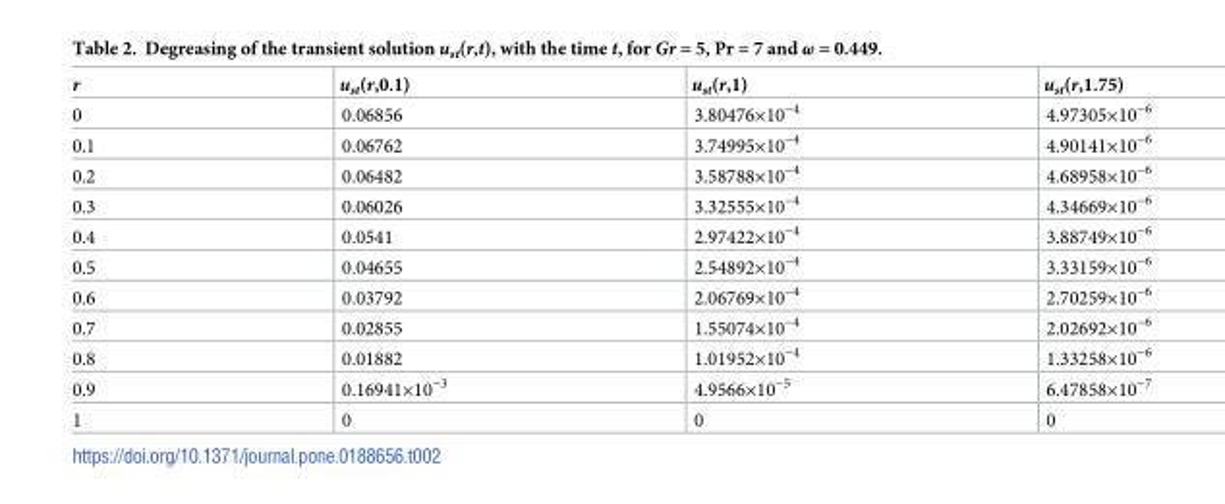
<table><thead><tr><td>r</td><td>u<sub>st</sub>(r,0.1)</td><td>u<sub>st</sub>(r,1)</td><td>u<sub>st</sub>(r,1.75)</td></tr></thead><tbody><tr><td>0</td><td>0.06856</td><td>3.80476×10<sup>−4</sup></td><td>4.97305×10<sup>−6</sup></td></tr><tr><td>0.1</td><td>0.06762</td><td>3.74995×10<sup>−4</sup></td><td>4.90141×10<sup>−6</sup></td></tr><tr><td>0.2</td><td>0.06482</td><td>3.58788×10<sup>−4</sup></td><td>4.68958×10<sup>−6</sup></td></tr><tr><td>0.3</td><td>0.06026</td><td>3.32555×10<sup>−4</sup></td><td>4.34669×10<sup>−6</sup></td></tr><tr><td>0.4</td><td>0.0541</td><td>2.97422×10<sup>−4</sup></td><td>3.88749×10<sup>−6</sup></td></tr><tr><td>0.5</td><td>0.04655</td><td>2.54892×10<sup>−4</sup></td><td>3.33159×10<sup>−6</sup></td></tr><tr><td>0.6</td><td>0.03792</td><td>2.06769×10<sup>−4</sup></td><td>2.70259×10<sup>−6</sup></td></tr><tr><td>0.7</td><td>0.02855</td><td>1.55074×10<sup>−4</sup></td><td>2.02692×10<sup>−6</sup></td></tr><tr><td>0.8</td><td>0.01882</td><td>1.01952×10<sup>−4</sup></td><td>1.33258×10<sup>−6</sup></td></tr><tr><td>0.9</td><td>0.16941×10<sup>−3</sup></td><td>4.9566×10<sup>−5</sup></td><td>6.47858×10<sup>−7</sup></td></tr><tr><td>1</td><td>0</td><td>0</td><td>0</td></tr></tbody></table>